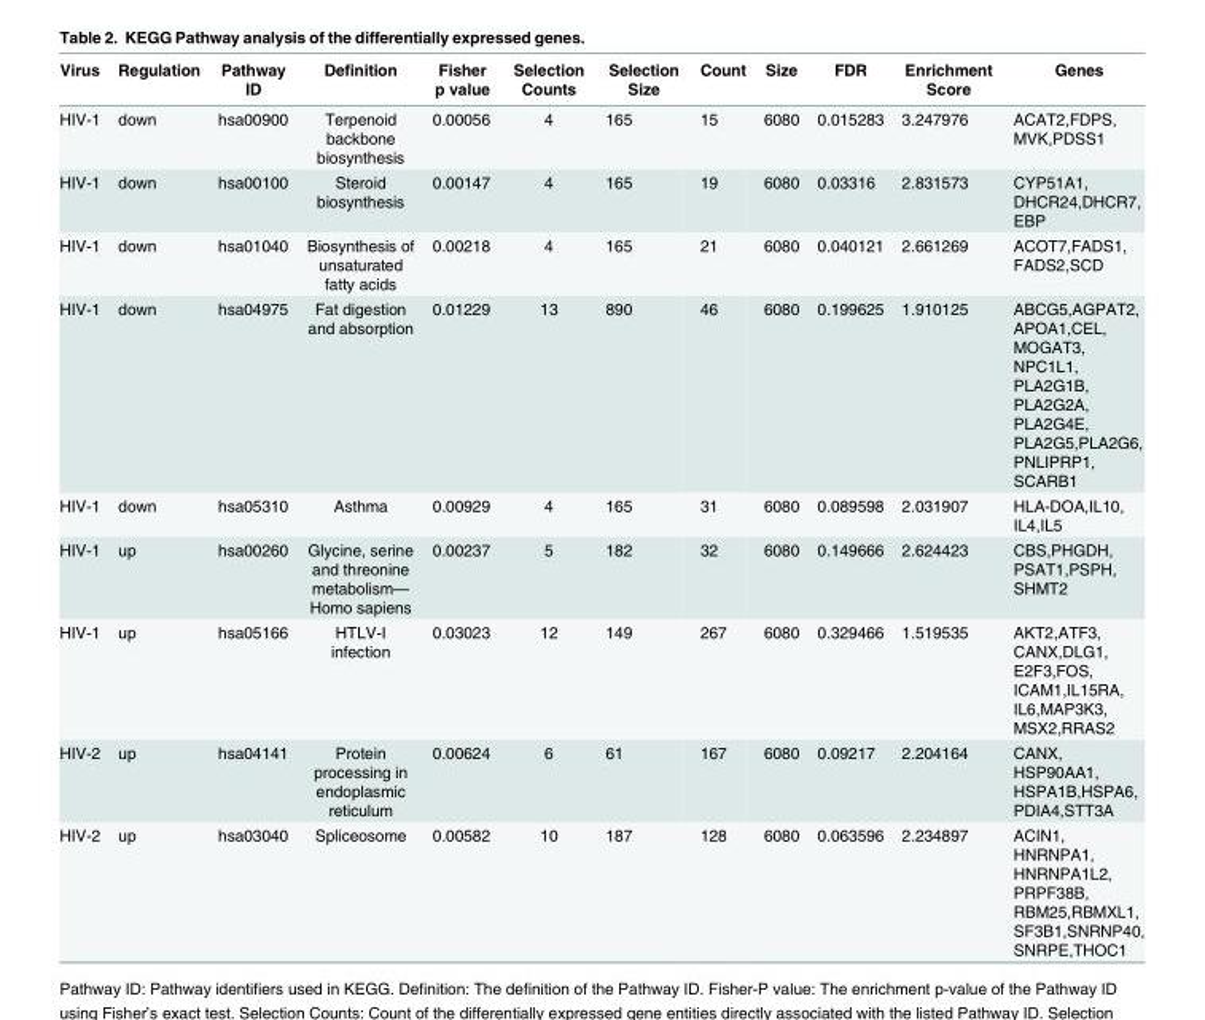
<table><thead><tr><td>Virus</td><td>Regulation</td><td>Pathway ID</td><td>Definition</td><td>Fisher p value</td><td>Selection Counts</td><td>Selection Size</td><td>Count</td><td>Size</td><td>FDR</td><td>Enrichment Score</td><td>Genes</td></tr></thead><tbody><tr><td>HIV-1</td><td>down</td><td>hsa00900</td><td>Terpenoid backbone biosynthesis</td><td>0.00056</td><td>4</td><td>165</td><td>15</td><td>6080</td><td>0.015283</td><td>3.247976</td><td>ACAT2,FDPS, MVK,PDSS1</td></tr><tr><td>HIV-1</td><td>down</td><td>hsa00100</td><td>Steroid biosynthesis</td><td>0.00147</td><td>4</td><td>165</td><td>19</td><td>6080</td><td>0.03316</td><td>2.831573</td><td>CYP51A1, DHCR24,DHCR7, EBP</td></tr><tr><td>HIV-1</td><td>down</td><td>hsa01040</td><td>Biosynthesis of unsaturated fatty acids</td><td>0.00218</td><td>4</td><td>165</td><td>21</td><td>6080</td><td>0.040121</td><td>2.661269</td><td>ACOT7,FADS1, FADS2,SCD</td></tr><tr><td>HIV-1</td><td>down</td><td>hsa04975</td><td>Fat digestion and absorption</td><td>0.01229</td><td>13</td><td>890</td><td>46</td><td>6080</td><td>0.199625</td><td>1.910125</td><td>ABCG5,AGPAT2, APOA1,CEL, MOGAT3, NPC1L1, PLA2G1B, PLA2G2A, PLA2G4E, PLA2G5,PLA2G6, PNLIPRP1, SCARB1</td></tr><tr><td>HIV-1</td><td>down</td><td>hsa05310</td><td>Asthma</td><td>0.00929</td><td>4</td><td>165</td><td>31</td><td>6080</td><td>0.089598</td><td>2.031907</td><td>HLA-DOA,IL10, IL4,IL5</td></tr><tr><td>HIV-1</td><td>up</td><td>hsa00260</td><td>Glycine, serine and threonine metabolism— Homo sapiens</td><td>0.00237</td><td>5</td><td>182</td><td>32</td><td>6080</td><td>0.149666</td><td>2.624423</td><td>CBS,PHGDH, PSAT1,PSPH, SHMT2</td></tr><tr><td>HIV-1</td><td>up</td><td>hsa05166</td><td>HTLV-I infection</td><td>0.03023</td><td>12</td><td>149</td><td>267</td><td>6080</td><td>0.329466</td><td>1.519535</td><td>AKT2,ATF3, CANX,DLG1, E2F3,FOS, ICAM1,IL15RA, IL6,MAP3K3, MSX2,RRAS2</td></tr><tr><td>HIV-2</td><td>up</td><td>hsa04141</td><td>Protein processing in endoplasmic reticulum</td><td>0.00624</td><td>6</td><td>61</td><td>167</td><td>6080</td><td>0.09217</td><td>2.204164</td><td>CANX, HSP90AA1, HSPA1B,HSPA6, PDIA4,STT3A</td></tr><tr><td>HIV-2</td><td>up</td><td>hsa03040</td><td>Spliceosome</td><td>0.00582</td><td>10</td><td>187</td><td>128</td><td>6080</td><td>0.063596</td><td>2.234897</td><td>ACIN1, HNRNPA1, HNRNPA1L2, PRPF38B, RBM25,RBMXL1, SF3B1,SNRNP40, SNRPE,THOC1</td></tr></tbody></table>